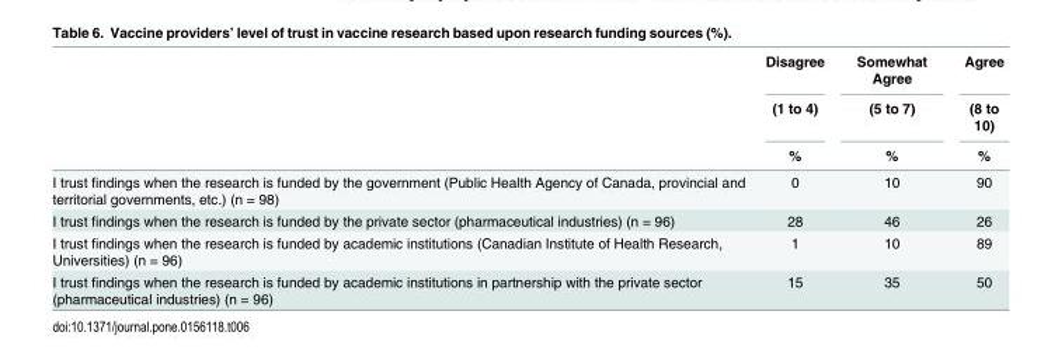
<table><thead><tr><td rowspan="3"></td><td rowspan="3">Disagree (1 to 4) %</td><td rowspan="3">Somewhat Agree (5 to 7) %</td><td rowspan="3">Agree (8 to 10) %</td></tr><tr></tr><tr></tr></thead><tbody><tr><td>I trust findings when the research is funded by the government (Public Health Agency of Canada, provincial and territorial governments, etc.) (n = 98)</td><td>0</td><td>10</td><td>90</td></tr><tr><td>I trust findings when the research is funded by the private sector (pharmaceutical industries) (n = 96)</td><td>28</td><td>46</td><td>26</td></tr><tr><td>I trust findings when the research is funded by academic institutions (Canadian Institute of Health Research, Universities) (n = 96)</td><td>1</td><td>10</td><td>89</td></tr><tr><td>I trust findings when the research is funded by academic institutions in partnership with the private sector (pharmaceutical industries) (n = 96)</td><td>15</td><td>35</td><td>50</td></tr></tbody></table>